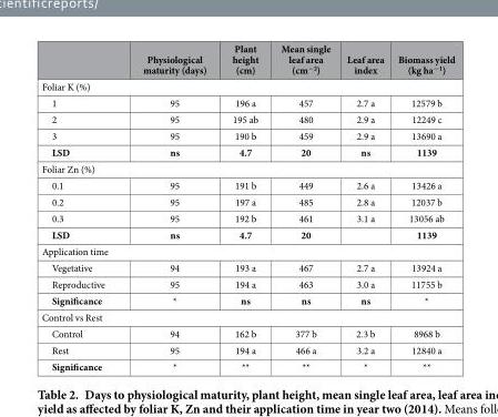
<table><thead><tr><td></td><td>Physiological maturity (days)</td><td>Plant height (cm)</td><td>Mean single leaf area (cm<sup>−2</sup>)</td><td>Leaf area index</td><td>Biomass yield (kg ha<sup>−1</sup>)</td></tr></thead><tbody><tr><td colspan="6">Foliar K (%)</td></tr><tr><td>1</td><td>95</td><td>196 a</td><td>457</td><td>2.7 a</td><td>12579 b</td></tr><tr><td>2</td><td>95</td><td>195 ab</td><td>480</td><td>2.9 a</td><td>12249 c</td></tr><tr><td>3</td><td>95</td><td>190 b</td><td>459</td><td>2.9 a</td><td>13690 a</td></tr><tr><td>LSD</td><td>ns</td><td>4.7</td><td>20</td><td>ns</td><td>1139</td></tr><tr><td colspan="6">Foliar Zn (%)</td></tr><tr><td>0.1</td><td>95</td><td>191 b</td><td>449</td><td>2.6 a</td><td>13426 a</td></tr><tr><td>0.2</td><td>95</td><td>197 a</td><td>485</td><td>2.8 a</td><td>12037 b</td></tr><tr><td>0.3</td><td>95</td><td>192 b</td><td>461</td><td>3.1 a</td><td>13056 ab</td></tr><tr><td>LSD</td><td>ns</td><td>4.7</td><td>20</td><td></td><td>1139</td></tr><tr><td colspan="6">Application time</td></tr><tr><td>Vegetative</td><td>94</td><td>193 a</td><td>467</td><td>2.7 a</td><td>13924 a</td></tr><tr><td>Reproductive</td><td>95</td><td>194 a</td><td>463</td><td>3.0 a</td><td>11755 b</td></tr><tr><td>Significance</td><td>*</td><td>ns</td><td>ns</td><td>ns</td><td>*</td></tr><tr><td colspan="6">Control vs Rest</td></tr><tr><td>Control</td><td>94</td><td>162 b</td><td>377 b</td><td>2.3 b</td><td>8968 b</td></tr><tr><td>Rest</td><td>95</td><td>194 a</td><td>466 a</td><td>3.2 a</td><td>12840 a</td></tr><tr><td>Significance</td><td>*</td><td>**</td><td>**</td><td>*</td><td>**</td></tr></tbody></table>